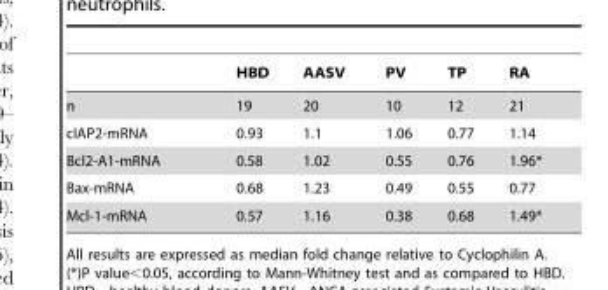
<table><thead><tr><td></td><td>HBD</td><td>AASV</td><td>PV</td><td>TP</td><td>RA</td></tr></thead><tbody><tr><td>n</td><td>19</td><td>20</td><td>10</td><td>12</td><td>21</td></tr><tr><td>cIAP2-mRNA</td><td>0.93</td><td>1.1</td><td>1.06</td><td>0.77</td><td>1.14</td></tr><tr><td>Bcl2-A1-mRNA</td><td>0.58</td><td>1.02</td><td>0.55</td><td>0.76</td><td>1.96*</td></tr><tr><td>Bax-mRNA</td><td>0.68</td><td>1.23</td><td>0.49</td><td>0.55</td><td>0.77</td></tr><tr><td>Mcl-1-mRNA</td><td>0.57</td><td>1.16</td><td>0.38</td><td>0.68</td><td>1.49*</td></tr></tbody></table>